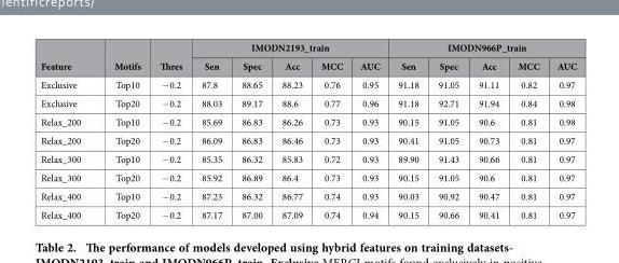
<table><thead><tr><td rowspan="2">Feature</td><td rowspan="2">Motifs</td><td rowspan="2">Thres</td><td colspan="5">IMODN2193_train</td><td colspan="5">IMODN966P_train</td></tr><tr><td>Sen</td><td>Spec</td><td>Acc</td><td>MCC</td><td>AUC</td><td>Sen</td><td>Spec</td><td>Acc</td><td>MCC</td><td>AUC</td></tr></thead><tbody><tr><td>Exclusive</td><td>Top10</td><td>− 0.2</td><td>87.8</td><td>88.65</td><td>88.23</td><td>0.76</td><td>0.95</td><td>91.18</td><td>91.05</td><td>91.11</td><td>0.82</td><td>0.97</td></tr><tr><td>Exclusive</td><td>Top20</td><td>− 0.2</td><td>88.03</td><td>89.17</td><td>88.6</td><td>0.77</td><td>0.96</td><td>91.18</td><td>92.71</td><td>91.94</td><td>0.84</td><td>0.98</td></tr><tr><td>Relax_200</td><td>Top10</td><td>− 0.2</td><td>85.69</td><td>86.83</td><td>86.26</td><td>0.73</td><td>0.93</td><td>90.15</td><td>91.05</td><td>90.6</td><td>0.81</td><td>0.98</td></tr><tr><td>Relax_200</td><td>Top20</td><td>− 0.2</td><td>86.09</td><td>86.83</td><td>86.46</td><td>0.73</td><td>0.93</td><td>90.41</td><td>91.05</td><td>90.73</td><td>0.81</td><td>0.97</td></tr><tr><td>Relax_300</td><td>Top10</td><td>− 0.2</td><td>85.35</td><td>86.32</td><td>85.83</td><td>0.72</td><td>0.93</td><td>89.90</td><td>91.43</td><td>90.66</td><td>0.81</td><td>0.97</td></tr><tr><td>Relax_300</td><td>Top20</td><td>− 0.2</td><td>85.92</td><td>86.89</td><td>86.4</td><td>0.73</td><td>0.93</td><td>90.15</td><td>91.05</td><td>90.6</td><td>0.81</td><td>0.97</td></tr><tr><td>Relax_400</td><td>Top10</td><td>− 0.2</td><td>87.23</td><td>86.32</td><td>86.77</td><td>0.74</td><td>0.93</td><td>90.03</td><td>90.92</td><td>90.47</td><td>0.81</td><td>0.97</td></tr><tr><td>Relax_400</td><td>Top20</td><td>− 0.2</td><td>87.17</td><td>87.00</td><td>87.09</td><td>0.74</td><td>0.94</td><td>90.15</td><td>90.66</td><td>90.41</td><td>0.81</td><td>0.97</td></tr></tbody></table>